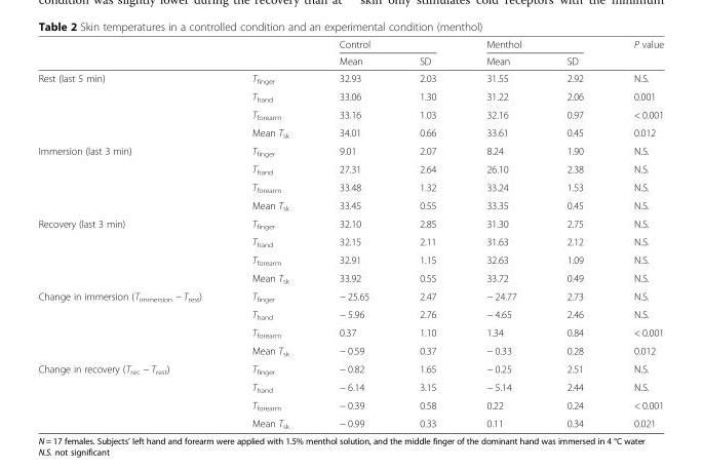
<table><thead><tr><td rowspan="2"></td><td rowspan="2"></td><td colspan="2">Control</td><td colspan="2">Menthol</td><td rowspan="2">P value</td></tr><tr><td>Mean</td><td>SD</td><td>Mean</td><td>SD</td></tr></thead><tbody><tr><td rowspan="4">Rest (last 5 min)</td><td>T<sub>finger</sub></td><td>32.93</td><td>2.03</td><td>31.55</td><td>2.92</td><td>N.S.</td></tr><tr><td>T<sub>hand</sub></td><td>33.06</td><td>1.30</td><td>31.22</td><td>2.06</td><td>0.001</td></tr><tr><td>T<sub>forearm</sub></td><td>33.16</td><td>1.03</td><td>32.16</td><td>0.97</td><td>&lt; 0.001</td></tr><tr><td>Mean T<sub>sk</sub></td><td>34.01</td><td>0.66</td><td>33.61</td><td>0.45</td><td>0.012</td></tr><tr><td rowspan="4">Immersion (last 3 min)</td><td>T<sub>finger</sub></td><td>9.01</td><td>2.07</td><td>8.24</td><td>1.90</td><td>N.S.</td></tr><tr><td>T<sub>hand</sub></td><td>27.31</td><td>2.64</td><td>26.10</td><td>2.38</td><td>N.S.</td></tr><tr><td>T<sub>forearm</sub></td><td>33.48</td><td>1.32</td><td>33.24</td><td>1.53</td><td>N.S.</td></tr><tr><td>Mean T<sub>sk</sub></td><td>33.45</td><td>0.55</td><td>33.35</td><td>0.45</td><td>N.S.</td></tr><tr><td rowspan="4">Recovery (last 3 min)</td><td>T<sub>finger</sub></td><td>32.10</td><td>2.85</td><td>31.30</td><td>2.75</td><td>N.S.</td></tr><tr><td>T<sub>hand</sub></td><td>32.15</td><td>2.11</td><td>31.63</td><td>2.12</td><td>N.S.</td></tr><tr><td>T<sub>forearm</sub></td><td>32.91</td><td>1.15</td><td>32.63</td><td>1.09</td><td>N.S.</td></tr><tr><td>Mean T<sub>sk</sub></td><td>33.92</td><td>0.55</td><td>33.72</td><td>0.49</td><td>N.S.</td></tr><tr><td rowspan="4">Change in immersion (T<sub>immersion</sub> − T<sub>rest</sub>)</td><td>T<sub>finger</sub></td><td>− 25.65</td><td>2.47</td><td>− 24.77</td><td>2.73</td><td>N.S.</td></tr><tr><td>T<sub>hand</sub></td><td>− 5.96</td><td>2.76</td><td>− 4.65</td><td>2.46</td><td>N.S.</td></tr><tr><td>T<sub>forearm</sub></td><td>0.37</td><td>1.10</td><td>1.34</td><td>0.84</td><td>&lt; 0.001</td></tr><tr><td>Mean T<sub>sk</sub></td><td>− 0.59</td><td>0.37</td><td>− 0.33</td><td>0.28</td><td>0.012</td></tr><tr><td rowspan="4">Change in recovery (T<sub>rec</sub> − T<sub>rest</sub>)</td><td>T<sub>finger</sub></td><td>− 0.82</td><td>1.65</td><td>− 0.25</td><td>2.51</td><td>N.S.</td></tr><tr><td>T<sub>hand</sub></td><td>− 6.14</td><td>3.15</td><td>− 5.14</td><td>2.44</td><td>N.S.</td></tr><tr><td>T<sub>forearm</sub></td><td>− 0.39</td><td>0.58</td><td>0.22</td><td>0.24</td><td>&lt; 0.001</td></tr><tr><td>Mean T<sub>sk</sub></td><td>− 0.99</td><td>0.33</td><td>0.11</td><td>0.34</td><td>0.021</td></tr></tbody></table>